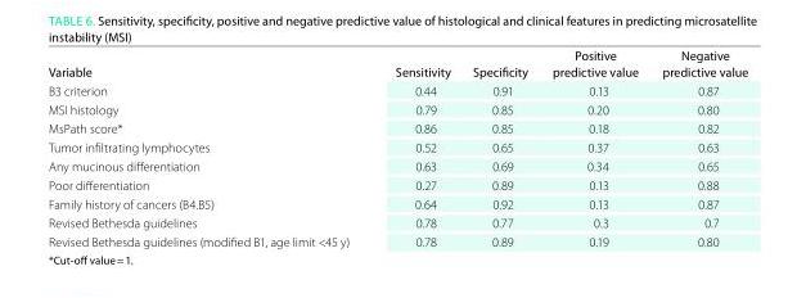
<table><thead><tr><td>Variable</td><td>Sensitivity</td><td>Specificity</td><td>Positive predictive value</td><td>Negative predictive value</td></tr></thead><tbody><tr><td>B3 criterion</td><td>0.44</td><td>0.91</td><td>0.13</td><td>0.87</td></tr><tr><td>MSI histology</td><td>0.79</td><td>0.85</td><td>0.20</td><td>0.80</td></tr><tr><td>MsPath score*</td><td>0.86</td><td>0.85</td><td>0.18</td><td>0.82</td></tr><tr><td>Tumor infiltrating lymphocytes</td><td>0.52</td><td>0.65</td><td>0.37</td><td>0.63</td></tr><tr><td>Any mucinous differentiation</td><td>0.63</td><td>0.69</td><td>0.34</td><td>0.65</td></tr><tr><td>Poor differentiation</td><td>0.27</td><td>0.89</td><td>0.13</td><td>0.88</td></tr><tr><td>Family history of cancers (B4.B5)</td><td>0.64</td><td>0.92</td><td>0.13</td><td>0.87</td></tr><tr><td>Revised Bethesda guidelines</td><td>0.78</td><td>0.77</td><td>0.3</td><td>0.7</td></tr><tr><td>Revised Bethesda guidelines (modified B1, age limit &lt;45 y)</td><td>0.78</td><td>0.89</td><td>0.19</td><td>0.80</td></tr></tbody></table>